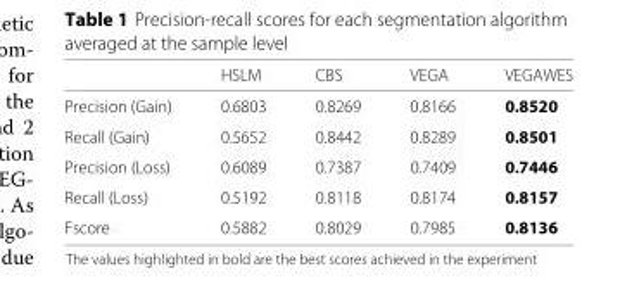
<table><thead><tr><td></td><td>HSLM</td><td>CBS</td><td>VEGA</td><td>VEGAWES</td></tr></thead><tbody><tr><td>Precision (Gain)</td><td>0.6803</td><td>0.8269</td><td>0.8166</td><td>0.8520</td></tr><tr><td>Recall (Gain)</td><td>0.5652</td><td>0.8442</td><td>0.8289</td><td>0.8501</td></tr><tr><td>Precision (Loss)</td><td>0.6089</td><td>0.7387</td><td>0.7409</td><td>0.7446</td></tr><tr><td>Recall (Loss)</td><td>0.5192</td><td>0.8118</td><td>0.8174</td><td>0.8157</td></tr><tr><td>Fscore</td><td>0.5882</td><td>0.8029</td><td>0.7985</td><td>0.8136</td></tr></tbody></table>